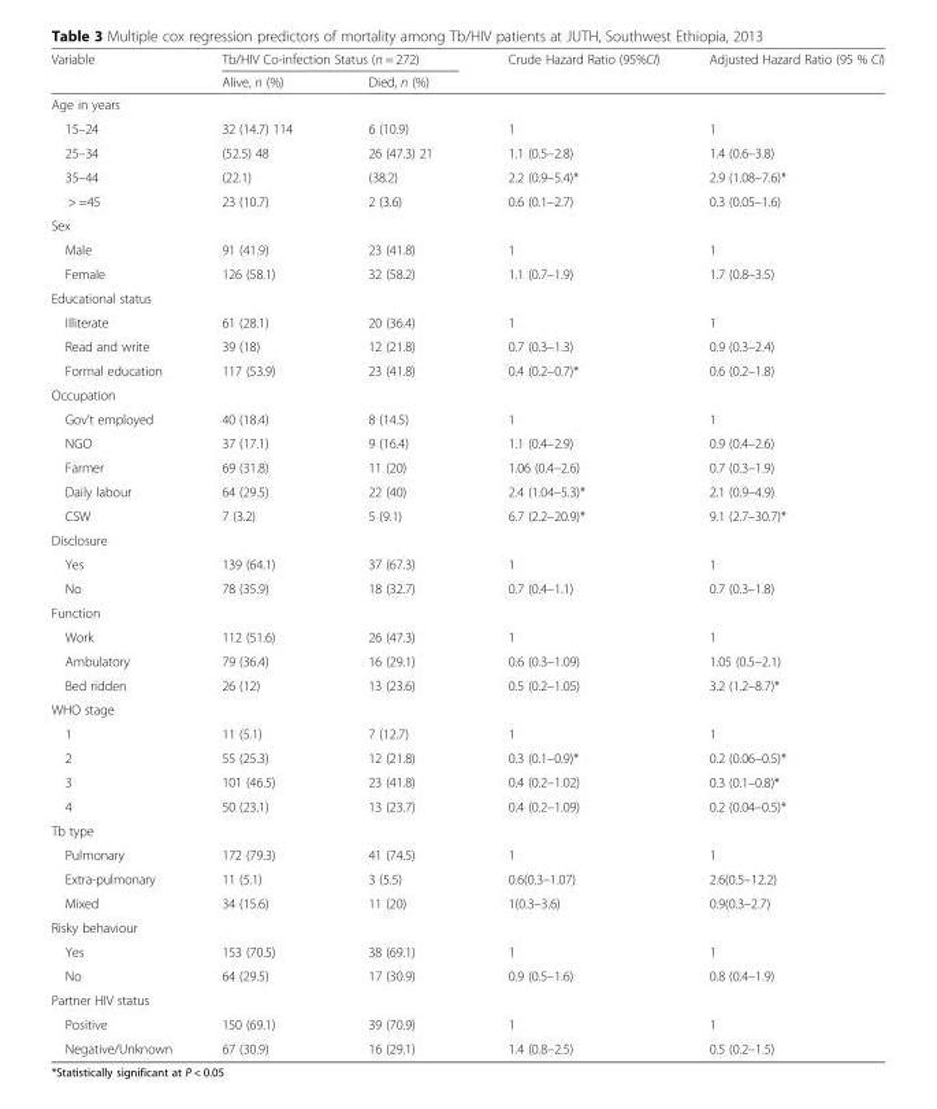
<table><thead><tr><td rowspan="2">Variable</td><td colspan="2">Tb/HIV Co-infection Status (n = 272)</td><td rowspan="2">Crude Hazard Ratio (95%CI)</td><td rowspan="2">Adjusted Hazard Ratio (95 % CI)</td></tr><tr><td>Alive, n (%)</td><td>Died, n (%)</td></tr></thead><tbody><tr><td colspan="5">Age in years</td></tr><tr><td>15–24</td><td>32 (14.7) 114</td><td>6 (10.9)</td><td>1</td><td>1</td></tr><tr><td>25–34</td><td>(52.5) 48</td><td>26 (47.3) 21</td><td>1.1 (0.5–2.8)</td><td>1.4 (0.6–3.8)</td></tr><tr><td>35–44</td><td>(22.1)</td><td>(38.2)</td><td>2.2 (0.9–5.4)*</td><td>2.9 (1.08–7.6)*</td></tr><tr><td>&gt; =45</td><td>23 (10.7)</td><td>2 (3.6)</td><td>0.6 (0.1–2.7)</td><td>0.3 (0.05–1.6)</td></tr><tr><td colspan="5">Sex</td></tr><tr><td>Male</td><td>91 (41.9)</td><td>23 (41.8)</td><td>1</td><td>1</td></tr><tr><td>Female</td><td>126 (58.1)</td><td>32 (58.2)</td><td>1.1 (0.7–1.9)</td><td>1.7 (0.8–3.5)</td></tr><tr><td colspan="5">Educational status</td></tr><tr><td>Illiterate</td><td>61 (28.1)</td><td>20 (36.4)</td><td>1</td><td>1</td></tr><tr><td>Read and write</td><td>39 (18)</td><td>12 (21.8)</td><td>0.7 (0.3–1.3)</td><td>0.9 (0.3–2.4)</td></tr><tr><td>Formal education</td><td>117 (53.9)</td><td>23 (41.8)</td><td>0.4 (0.2–0.7)*</td><td>0.6 (0.2–1.8)</td></tr><tr><td colspan="5">Occupation</td></tr><tr><td>Gov’t employed</td><td>40 (18.4)</td><td>8 (14.5)</td><td>1</td><td>1</td></tr><tr><td>NGO</td><td>37 (17.1)</td><td>9 (16.4)</td><td>1.1 (0.4–2.9)</td><td>0.9 (0.4–2.6)</td></tr><tr><td>Farmer</td><td>69 (31.8)</td><td>11 (20)</td><td>1.06 (0.4–2.6)</td><td>0.7 (0.3–1.9)</td></tr><tr><td>Daily labour</td><td>64 (29.5)</td><td>22 (40)</td><td>2.4 (1.04–5.3)*</td><td>2.1 (0.9–4.9)</td></tr><tr><td>CSW</td><td>7 (3.2)</td><td>5 (9.1)</td><td>6.7 (2.2–20.9)*</td><td>9.1 (2.7–30.7)*</td></tr><tr><td colspan="5">Disclosure</td></tr><tr><td>Yes</td><td>139 (64.1)</td><td>37 (67.3)</td><td>1</td><td>1</td></tr><tr><td>No</td><td>78 (35.9)</td><td>18 (32.7)</td><td>0.7 (0.4–1.1)</td><td>0.7 (0.3–1.8)</td></tr><tr><td colspan="5">Function</td></tr><tr><td>Work</td><td>112 (51.6)</td><td>26 (47.3)</td><td>1</td><td>1</td></tr><tr><td>Ambulatory</td><td>79 (36.4)</td><td>16 (29.1)</td><td>0.6 (0.3–1.09)</td><td>1.05 (0.5–2.1)</td></tr><tr><td>Bed ridden</td><td>26 (12)</td><td>13 (23.6)</td><td>0.5 (0.2–1.05)</td><td>3.2 (1.2–8.7)*</td></tr><tr><td colspan="5">WHO stage</td></tr><tr><td>1</td><td>11 (5.1)</td><td>7 (12.7)</td><td>1</td><td>1</td></tr><tr><td>2</td><td>55 (25.3)</td><td>12 (21.8)</td><td>0.3 (0.1–0.9)*</td><td>0.2 (0.06–0.5)*</td></tr><tr><td>3</td><td>101 (46.5)</td><td>23 (41.8)</td><td>0.4 (0.2–1.02)</td><td>0.3 (0.1–0.8)*</td></tr><tr><td>4</td><td>50 (23.1)</td><td>13 (23.7)</td><td>0.4 (0.2–1.09)</td><td>0.2 (0.04–0.5)*</td></tr><tr><td colspan="5">Tb type</td></tr><tr><td>Pulmonary</td><td>172 (79.3)</td><td>41 (74.5)</td><td>1</td><td>1</td></tr><tr><td>Extra-pulmonary</td><td>11 (5.1)</td><td>3 (5.5)</td><td>0.6(0.3–1.07)</td><td>2.6(0.5–12.2)</td></tr><tr><td>Mixed</td><td>34 (15.6)</td><td>11 (20)</td><td>1(0.3–3.6)</td><td>0.9(0.3–2.7)</td></tr><tr><td colspan="5">Risky behaviour</td></tr><tr><td>Yes</td><td>153 (70.5)</td><td>38 (69.1)</td><td>1</td><td>1</td></tr><tr><td>No</td><td>64 (29.5)</td><td>17 (30.9)</td><td>0.9 (0.5–1.6)</td><td>0.8 (0.4–1.9)</td></tr><tr><td colspan="5">Partner HIV status</td></tr><tr><td>Positive</td><td>150 (69.1)</td><td>39 (70.9)</td><td>1</td><td>1</td></tr><tr><td>Negative/Unknown</td><td>67 (30.9)</td><td>16 (29.1)</td><td>1.4 (0.8–2.5)</td><td>0.5 (0.2–1.5)</td></tr></tbody></table>